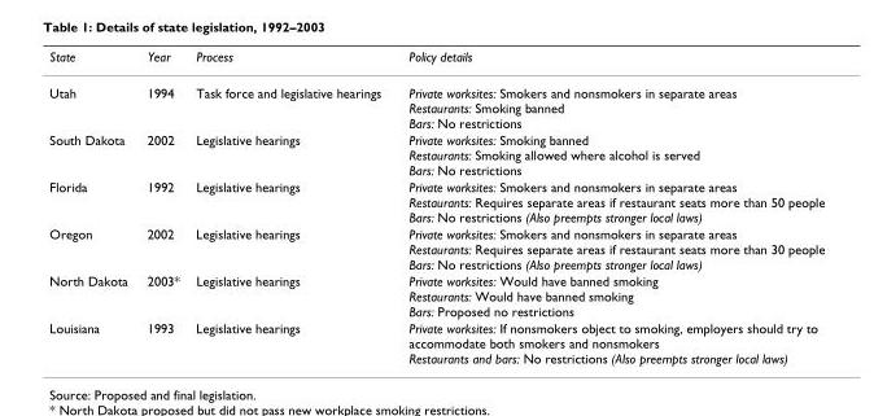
<table><thead><tr><td>State</td><td>Year</td><td>Process</td><td>Policy details</td></tr></thead><tbody><tr><td>Utah</td><td>1994</td><td>Task force and legislative hearings</td><td>Private worksites: Smokers and nonsmokers in separate areas Restaurants: Smoking banned Bars: No restrictions</td></tr><tr><td>South Dakota</td><td>2002</td><td>Legislative hearings</td><td>Private worksites: Smoking banned Restaurants: Smoking allowed where alcohol is served Bars: No restrictions</td></tr><tr><td>Florida</td><td>1992</td><td>Legislative hearings</td><td>Private worksites: Smokers and nonsmokers in separate areas Restaurants: Requires separate areas if restaurant seats more than 50 people Bars: No restrictions (Also preempts stronger local laws)</td></tr><tr><td>Oregon</td><td>2002</td><td>Legislative hearings</td><td>Private worksites: Smokers and nonsmokers in separate areas Restaurants: Requires separate areas if restaurant seats more than 30 people Bars: No restrictions (Also preempts stronger local laws)</td></tr><tr><td>North Dakota</td><td>2003*</td><td>Legislative hearings</td><td>Private worksites: Would have banned smoking Restaurants: Would have banned smoking Bars: Proposed no restrictions</td></tr><tr><td>Louisiana</td><td>1993</td><td>Legislative hearings</td><td>Private worksites: If nonsmokers object to smoking, employers should try to accommodate both smokers and nonsmokers Restaurants and bars: No restrictions (Also preempts stronger local laws)</td></tr></tbody></table>